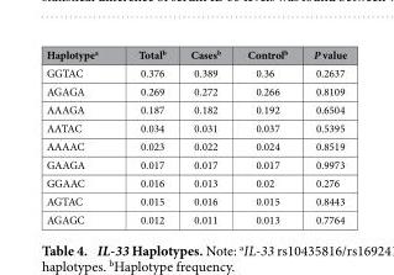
<table><thead><tr><td>Haplotype<sup>a</sup></td><td>Total<sup>b</sup></td><td>Cases<sup>b</sup></td><td>Control<sup>b</sup></td><td>P value</td></tr></thead><tbody><tr><td>GGTAC</td><td>0.376</td><td>0.389</td><td>0.36</td><td>0.2637</td></tr><tr><td>AGAGA</td><td>0.269</td><td>0.272</td><td>0.266</td><td>0.8109</td></tr><tr><td>AAAGA</td><td>0.187</td><td>0.182</td><td>0.192</td><td>0.6504</td></tr><tr><td>AATAC</td><td>0.034</td><td>0.031</td><td>0.037</td><td>0.5395</td></tr><tr><td>AAAAC</td><td>0.023</td><td>0.022</td><td>0.024</td><td>0.8519</td></tr><tr><td>GAAGA</td><td>0.017</td><td>0.017</td><td>0.017</td><td>0.9973</td></tr><tr><td>GGAAC</td><td>0.016</td><td>0.013</td><td>0.02</td><td>0.276</td></tr><tr><td>AGTAC</td><td>0.015</td><td>0.016</td><td>0.015</td><td>0.8443</td></tr><tr><td>AGAGC</td><td>0.012</td><td>0.011</td><td>0.013</td><td>0.7764</td></tr></tbody></table>